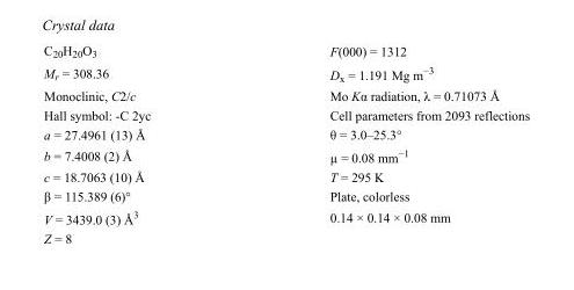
<table><tbody><tr><td>C<sub>20</sub>H<sub>20</sub>O<sub>3</sub></td><td>F(000) = 1312</td></tr><tr><td>M<sub>r</sub> = 308.36</td><td>D<sub>x</sub> = 1.191 Mg m<sup>−3</sup></td></tr><tr><td>Monoclinic, C2/c</td><td>Mo Kα radiation, λ = 0.71073 Å</td></tr><tr><td>Hall symbol: -C 2yc</td><td>Cell parameters from 2093 reflections</td></tr><tr><td>a = 27.4961 (13) Å</td><td>θ = 3.0–25.3°</td></tr><tr><td>b = 7.4008 (2) Å</td><td>µ = 0.08 mm<sup>−1</sup></td></tr><tr><td>c = 18.7063 (10) Å</td><td>T = 295 K</td></tr><tr><td>β = 115.389 (6)°</td><td>Plate, colorless</td></tr><tr><td>V = 3439.0 (3) Å<sup>3</sup></td><td>0.14 × 0.14 × 0.08 mm</td></tr><tr><td>Z = 8</td><td></td></tr></tbody></table>